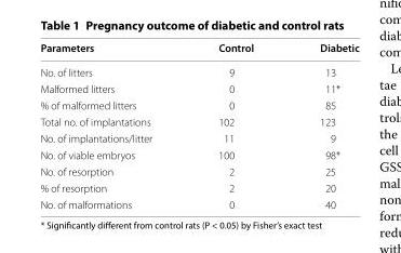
<table><thead><tr><td>Parameters</td><td>Control</td><td>Diabetic</td></tr></thead><tbody><tr><td>No. of litters</td><td>9</td><td>13</td></tr><tr><td>Malformed litters</td><td>0</td><td>11*</td></tr><tr><td>% of malformed litters</td><td>0</td><td>85</td></tr><tr><td>Total no. of implantations</td><td>102</td><td>123</td></tr><tr><td>No. of implantations/litter</td><td>11</td><td>9</td></tr><tr><td>No. of viable embryos</td><td>100</td><td>98*</td></tr><tr><td>No. of resorption</td><td>2</td><td>25</td></tr><tr><td>% of resorption</td><td>2</td><td>20</td></tr><tr><td>No. of malformations</td><td>0</td><td>40</td></tr></tbody></table>